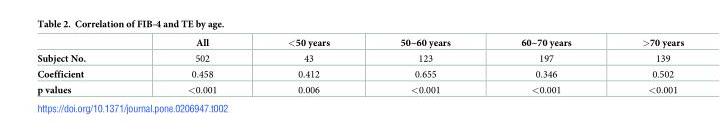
<table><thead><tr><td></td><td>All</td><td>&lt;50 years</td><td>50~60 years</td><td>60~70 years</td><td>&gt;70 years</td></tr></thead><tbody><tr><td>Subject No.</td><td>502</td><td>43</td><td>123</td><td>197</td><td>139</td></tr><tr><td>Coefficient</td><td>0.458</td><td>0.412</td><td>0.655</td><td>0.346</td><td>0.502</td></tr><tr><td>p values</td><td>&lt;0.001</td><td>0.006</td><td>&lt;0.001</td><td>&lt;0.001</td><td>&lt;0.001</td></tr></tbody></table>